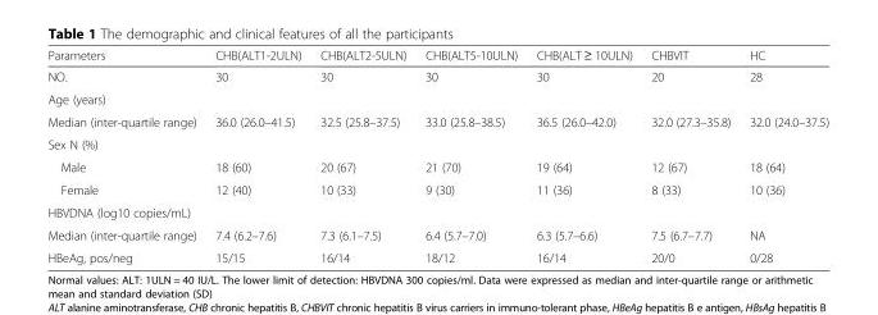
<table><thead><tr><td>Parameters</td><td>CHB(ALT1-2ULN)</td><td>CHB(ALT2-5ULN)</td><td>CHB(ALT5-10ULN)</td><td>CHB(ALT ≥ 10ULN)</td><td>CHBVIT</td><td>HC</td></tr></thead><tbody><tr><td>NO.</td><td>30</td><td>30</td><td>30</td><td>30</td><td>20</td><td>28</td></tr><tr><td colspan="7">Age (years)</td></tr><tr><td>Median (inter-quartile range)</td><td>36.0 (26.0–41.5)</td><td>32.5 (25.8–37.5)</td><td>33.0 (25.8–38.5)</td><td>36.5 (26.0–42.0)</td><td>32.0 (27.3–35.8)</td><td>32.0 (24.0–37.5)</td></tr><tr><td colspan="7">Sex N (%)</td></tr><tr><td>Male</td><td>18 (60)</td><td>20 (67)</td><td>21 (70)</td><td>19 (64)</td><td>12 (67)</td><td>18 (64)</td></tr><tr><td>Female</td><td>12 (40)</td><td>10 (33)</td><td>9 (30)</td><td>11 (36)</td><td>8 (33)</td><td>10 (36)</td></tr><tr><td colspan="7">HBVDNA (log10 copies/mL)</td></tr><tr><td>Median (inter-quartile range)</td><td>7.4 (6.2–7.6)</td><td>7.3 (6.1–7.5)</td><td>6.4 (5.7–7.0)</td><td>6.3 (5.7–6.6)</td><td>7.5 (6.7–7.7)</td><td>NA</td></tr><tr><td>HBeAg, pos/neg</td><td>15/15</td><td>16/14</td><td>18/12</td><td>16/14</td><td>20/0</td><td>0/28</td></tr></tbody></table>